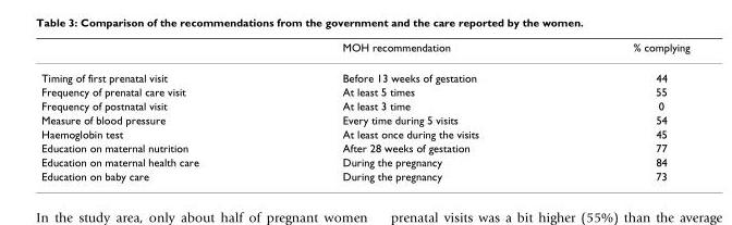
<table><thead><tr><td></td><td>MOH recommendation</td><td>% complying</td></tr></thead><tbody><tr><td>Timing of first prenatal visit</td><td>Before 13 weeks of gestation</td><td>44</td></tr><tr><td>Frequency of prenatal care visit</td><td>At least 5 times</td><td>55</td></tr><tr><td>Frequency of postnatal visit</td><td>At least 3 time</td><td>0</td></tr><tr><td>Measure of blood pressure</td><td>Every time during 5 visits</td><td>54</td></tr><tr><td>Haemoglobin test</td><td>At least once during the visits</td><td>45</td></tr><tr><td>Education on maternal nutrition</td><td>After 28 weeks of gestation</td><td>77</td></tr><tr><td>Education on maternal health care</td><td>During the pregnancy</td><td>84</td></tr><tr><td>Education on baby care</td><td>During the pregnancy</td><td>73</td></tr></tbody></table>